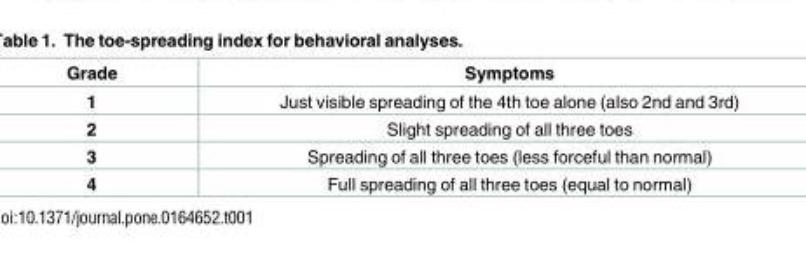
<table><thead><tr><td>Grade</td><td>Symptoms</td></tr></thead><tbody><tr><td>1</td><td>Just visible spreading of the 4th toe alone (also 2nd and 3rd)</td></tr><tr><td>2</td><td>Slight spreading of all three toes</td></tr><tr><td>3</td><td>Spreading of all three toes (less forceful than normal)</td></tr><tr><td>4</td><td>Full spreading of all three toes (equal to normal)</td></tr></tbody></table>